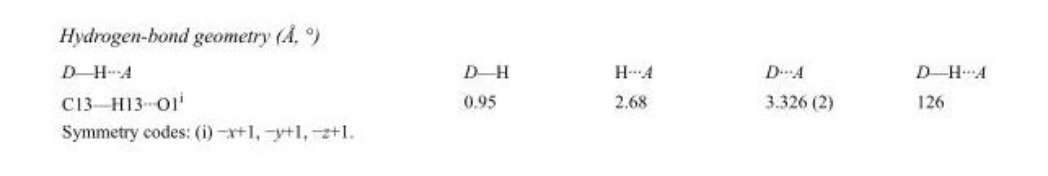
<table><tbody><tr><td>D—H···A</td><td>D—H</td><td>H···A</td><td>D···A</td><td>D—H···A</td></tr><tr><td>C13—H13···O1<sup>i</sup></td><td>0.95</td><td>2.68</td><td>3.326 (2)</td><td>126</td></tr></tbody></table>